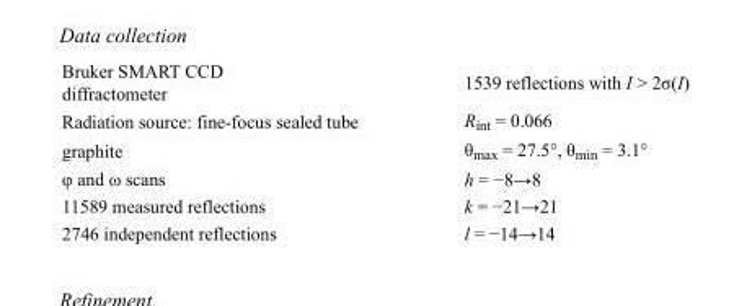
<table><tbody><tr><td>Bruker SMART CCD diffractometer</td><td>1539 reflections with I &gt; 2σ(I)</td></tr><tr><td>Radiation source: fine-focus sealed tube</td><td>R<sub>int</sub> = 0.066</td></tr><tr><td>graphite</td><td>θ<sub>max</sub> = 27.5°, θ<sub>min</sub> = 3.1°</td></tr><tr><td>φ and ω scans</td><td>h = −8→8</td></tr><tr><td>11589 measured reflections</td><td>k = −21→21</td></tr><tr><td>2746 independent reflections</td><td>l = −14→14</td></tr></tbody></table>